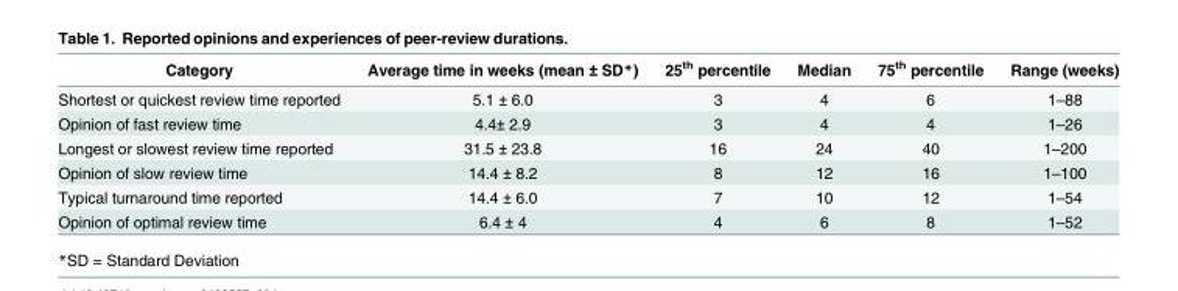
<table><thead><tr><td>Category</td><td>Average time in weeks (mean ± SD*)</td><td>25<sup>th</sup> percentile</td><td>Median</td><td>75<sup>th</sup> percentile</td><td>Range (weeks)</td></tr></thead><tbody><tr><td>Shortest or quickest review time reported</td><td>5.1 ± 6.0</td><td>3</td><td>4</td><td>6</td><td>1–88</td></tr><tr><td>Opinion of fast review time</td><td>4.4± 2.9</td><td>3</td><td>4</td><td>4</td><td>1–26</td></tr><tr><td>Longest or slowest review time reported</td><td>31.5 ± 23.8</td><td>16</td><td>24</td><td>40</td><td>1–200</td></tr><tr><td>Opinion of slow review time</td><td>14.4 ± 8.2</td><td>8</td><td>12</td><td>16</td><td>1–100</td></tr><tr><td>Typical turnaround time reported</td><td>14.4 ± 6.0</td><td>7</td><td>10</td><td>12</td><td>1–54</td></tr><tr><td>Opinion of optimal review time</td><td>6.4 ± 4</td><td>4</td><td>6</td><td>8</td><td>1–52</td></tr></tbody></table>